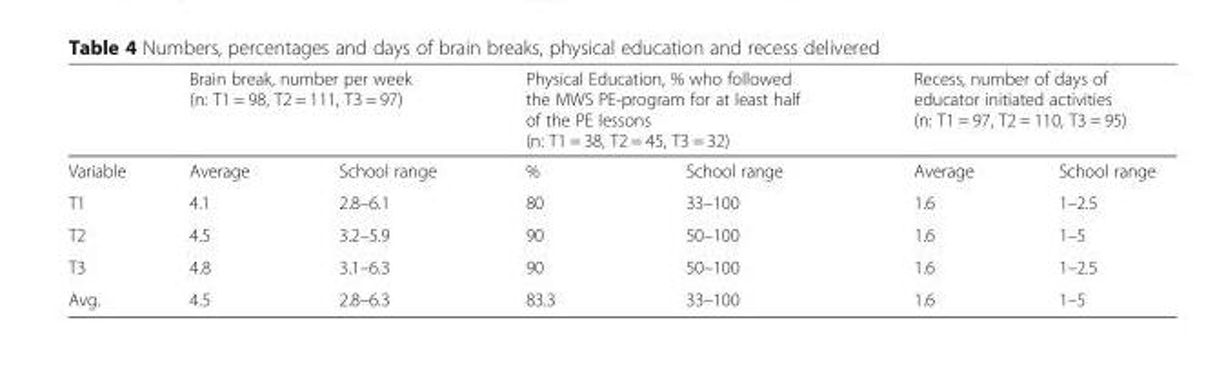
<table><thead><tr><td rowspan="2">Variable</td><td colspan="2">Brain break, number per week (n: T1 = 98, T2 = 111, T3 = 97)</td><td colspan="2">Physical Education, % who followed the MWS PE-program for at least half of the PE lessons (n: T1 = 38, T2 = 45, T3 = 32)</td><td colspan="2">Recess, number of days of educator initiated activities (n: T1 = 97, T2 = 110, T3 = 95)</td></tr><tr><td>Average</td><td>School range</td><td>%</td><td>School range</td><td>Average</td><td>School range</td></tr></thead><tbody><tr><td>T1</td><td>4.1</td><td>2.8–6.1</td><td>80</td><td>33–100</td><td>1.6</td><td>1–2.5</td></tr><tr><td>T2</td><td>4.5</td><td>3.2–5.9</td><td>90</td><td>50–100</td><td>1.6</td><td>1–5</td></tr><tr><td>T3</td><td>4.8</td><td>3.1–6.3</td><td>90</td><td>50–100</td><td>1.6</td><td>1–2.5</td></tr><tr><td>Avg.</td><td>4.5</td><td>2.8–6.3</td><td>83.3</td><td>33–100</td><td>1.6</td><td>1–5</td></tr></tbody></table>